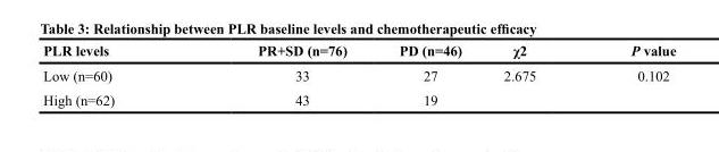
<table><thead><tr><td>PLR levels</td><td>PR+SD (n=76)</td><td>PD (n=46)</td><td>χ2</td><td>P value</td></tr></thead><tbody><tr><td>Low (n=60)</td><td>33</td><td>27</td><td rowspan="2">2.675</td><td rowspan="2">0.102</td></tr><tr><td>High (n=62)</td><td>43</td><td>19</td></tr></tbody></table>